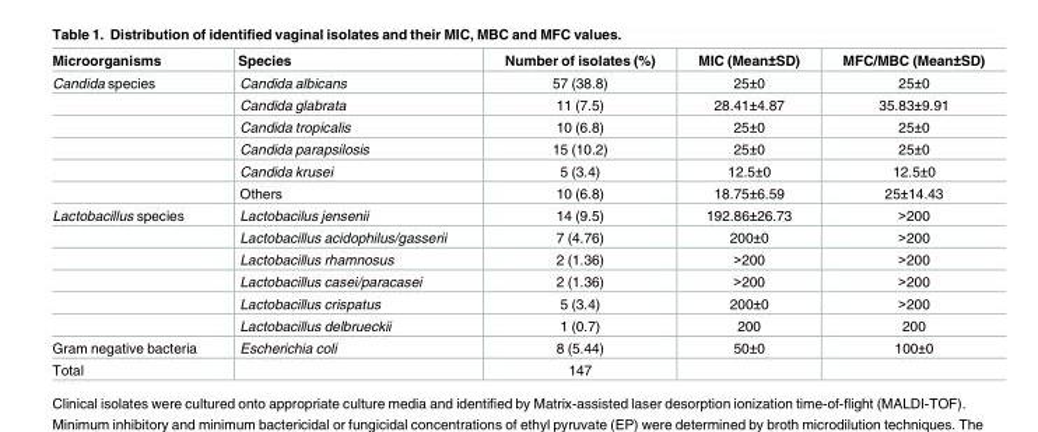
<table><thead><tr><td>Microorganisms</td><td>Species</td><td>Number of isolates (%)</td><td>MIC (Mean±SD)</td><td>MFC/MBC (Mean±SD)</td></tr></thead><tbody><tr><td rowspan="6">Candida species</td><td>Candida albicans</td><td>57 (38.8)</td><td>25±0</td><td>25±0</td></tr><tr><td>Candida glabrata</td><td>11 (7.5)</td><td>28.41±4.87</td><td>35.83±9.91</td></tr><tr><td>Candida tropicalis</td><td>10 (6.8)</td><td>25±0</td><td>25±0</td></tr><tr><td>Candida parapsilosis</td><td>15 (10.2)</td><td>25±0</td><td>25±0</td></tr><tr><td>Candida krusei</td><td>5 (3.4)</td><td>12.5±0</td><td>12.5±0</td></tr><tr><td>Others</td><td>10 (6.8)</td><td>18.75±6.59</td><td>25±14.43</td></tr><tr><td rowspan="6">Lactobacillus species</td><td>Lactobacilus jensenii</td><td>14 (9.5)</td><td>192.86±26.73</td><td>&gt;200</td></tr><tr><td>Lactobacillus acidophilus/gasserii</td><td>7 (4.76)</td><td>200±0</td><td>&gt;200</td></tr><tr><td>Lactobacillus rhamnosus</td><td>2 (1.36)</td><td>&gt;200</td><td>&gt;200</td></tr><tr><td>Lactobacillus casei/paracasei</td><td>2 (1.36)</td><td>&gt;200</td><td>&gt;200</td></tr><tr><td>Lactobacillus crispatus</td><td>5 (3.4)</td><td>200±0</td><td>&gt;200</td></tr><tr><td>Lactobacillus delbrueckii</td><td>1 (0.7)</td><td>200</td><td>200</td></tr><tr><td>Gram negative bacteria</td><td>Escherichia coli</td><td>8 (5.44)</td><td>50±0</td><td>100±0</td></tr><tr><td>Total</td><td></td><td>147</td><td></td><td></td></tr></tbody></table>